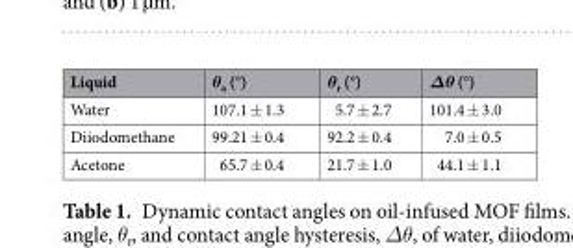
<table><thead><tr><td>Liquid</td><td>θ<sub>a</sub> (°)</td><td>θ<sub>r</sub> (°)</td><td>Δθ (°)</td></tr></thead><tbody><tr><td>Water</td><td>107.1 ± 1.3</td><td>5.7 ± 2.7</td><td>101.4 ± 3.0</td></tr><tr><td>Diiodomethane</td><td>99.21 ± 0.4</td><td>92.2 ± 0.4</td><td>7.0 ± 0.5</td></tr><tr><td>Acetone</td><td>65.7 ± 0.4</td><td>21.7 ± 1.0</td><td>44.1 ± 1.1</td></tr></tbody></table>